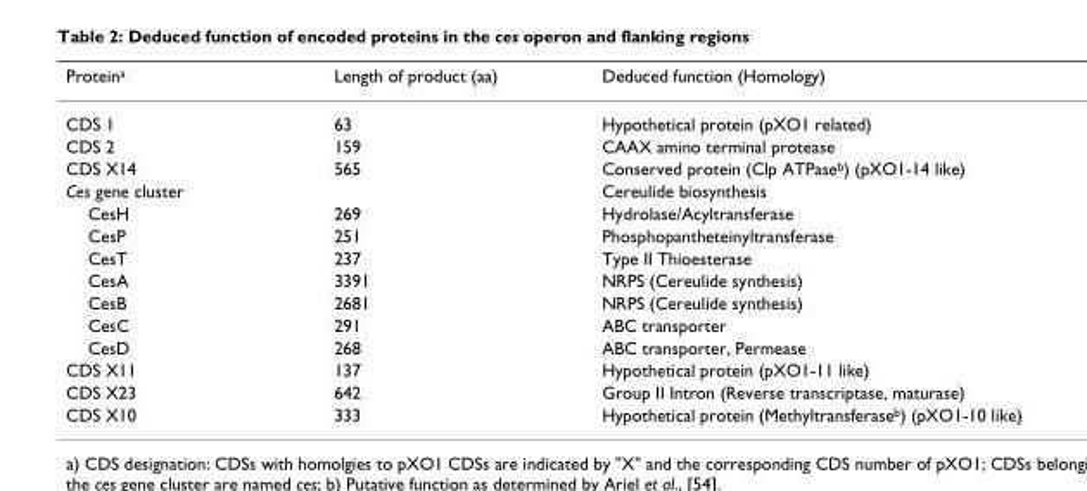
<table><thead><tr><td>Proteina</td><td>Length of product (aa)</td><td>Deduced function (Homology)</td></tr></thead><tbody><tr><td>CDS 1</td><td>63</td><td>Hypothetical protein (pXO1 related)</td></tr><tr><td>CDS 2</td><td>159</td><td>CAAX amino terminal protease</td></tr><tr><td>CDS X14</td><td>565</td><td>Conserved protein (Clp ATPaseb) (pXO1-14 like)</td></tr><tr><td>Ces gene cluster</td><td></td><td>Cereulide biosynthesis</td></tr><tr><td>CesH</td><td>269</td><td>Hydrolase/Acyltransferase</td></tr><tr><td>CesP</td><td>251</td><td>Phosphopantheteinyltransferase</td></tr><tr><td>CesT</td><td>237</td><td>Type II Thioesterase</td></tr><tr><td>CesA</td><td>3391</td><td>NRPS (Cereulide synthesis)</td></tr><tr><td>CesB</td><td>2681</td><td>NRPS (Cereulide synthesis)</td></tr><tr><td>CesC</td><td>291</td><td>ABC transporter</td></tr><tr><td>CesD</td><td>268</td><td>ABC transporter, Permease</td></tr><tr><td>CDS X11</td><td>137</td><td>Hypothetical protein (pXO1-11 like)</td></tr><tr><td>CDS X23</td><td>642</td><td>Group II Intron (Reverse transcriptase, maturase)</td></tr><tr><td>CDS X10</td><td>333</td><td>Hypothetical protein (Methyltransferaseb) (pXO1-10 like)</td></tr></tbody></table>